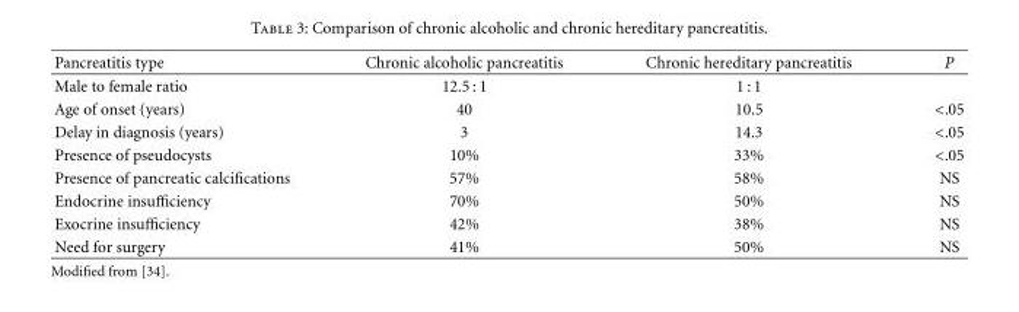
<table><thead><tr><td>Pancreatitis type</td><td>Chronic alcoholic pancreatitis</td><td>Chronic hereditary pancreatitis</td><td>P</td></tr></thead><tbody><tr><td>Male to female ratio</td><td>12.5 : 1</td><td>1 : 1</td><td></td></tr><tr><td>Age of onset (years)</td><td>40</td><td>10.5</td><td>&lt;.05</td></tr><tr><td>Delay in diagnosis (years)</td><td>3</td><td>14.3</td><td>&lt;.05</td></tr><tr><td>Presence of pseudocysts</td><td>10%</td><td>33%</td><td>&lt;.05</td></tr><tr><td>Presence of pancreatic calcifications</td><td>57%</td><td>58%</td><td>NS</td></tr><tr><td>Endocrine insufficiency</td><td>70%</td><td>50%</td><td>NS</td></tr><tr><td>Exocrine insufficiency</td><td>42%</td><td>38%</td><td>NS</td></tr><tr><td>Need for surgery</td><td>41%</td><td>50%</td><td>NS</td></tr></tbody></table>